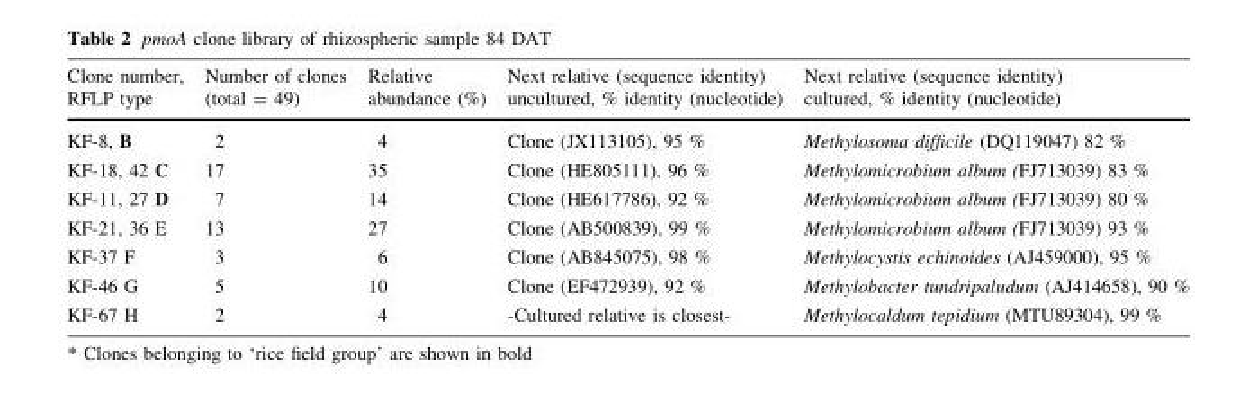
<table><thead><tr><td>Clone number, RFLP type</td><td>Number of clones (total = 49)</td><td>Relative abundance (%)</td><td>Next relative (sequence identity) uncultured, % identity (nucleotide)</td><td>Next relative (sequence identity) cultured, % identity (nucleotide)</td></tr></thead><tbody><tr><td>KF-8, B</td><td>2</td><td>4</td><td>Clone (JX113105), 95 %</td><td>Methylosoma difficile (DQ119047) 82 %</td></tr><tr><td>KF-18, 42 C</td><td>17</td><td>35</td><td>Clone (HE805111), 96 %</td><td>Methylomicrobium album (FJ713039) 83 %</td></tr><tr><td>KF-11, 27 D</td><td>7</td><td>14</td><td>Clone (HE617786), 92 %</td><td>Methylomicrobium album (FJ713039) 80 %</td></tr><tr><td>KF-21, 36 E</td><td>13</td><td>27</td><td>Clone (AB500839), 99 %</td><td>Methylomicrobium album (FJ713039) 93 %</td></tr><tr><td>KF-37 F</td><td>3</td><td>6</td><td>Clone (AB845075), 98 %</td><td>Methylocystis echinoides (AJ459000), 95 %</td></tr><tr><td>KF-46 G</td><td>5</td><td>10</td><td>Clone (EF472939), 92 %</td><td>Methylobacter tundripaludum (AJ414658), 90 %</td></tr><tr><td>KF-67 H</td><td>2</td><td>4</td><td>-Cultured relative is closest-</td><td>Methylocaldum tepidium (MTU89304), 99 %</td></tr></tbody></table>